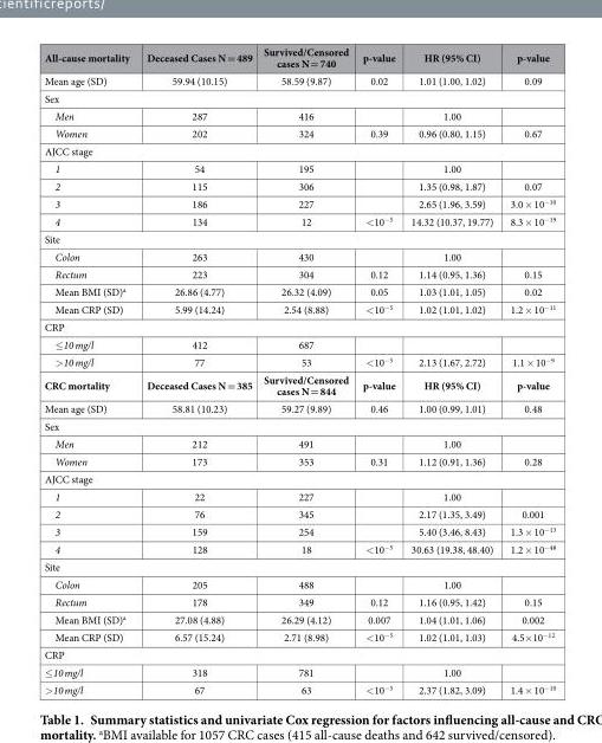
<table><thead><tr><td>All-cause mortality</td><td>Deceased Cases N = 489</td><td>Survived/Censored cases N = 740</td><td>p-value</td><td>HR (95% CI)</td><td>p-value</td></tr></thead><tbody><tr><td>Mean age (SD)</td><td>59.94 (10.15)</td><td>58.59 (9.87)</td><td>0.02</td><td>1.01 (1.00, 1.02)</td><td>0.09</td></tr><tr><td colspan="6">Sex</td></tr><tr><td>Men</td><td>287</td><td>416</td><td></td><td>1.00</td><td></td></tr><tr><td>Women</td><td>202</td><td>324</td><td>0.39</td><td>0.96 (0.80, 1.15)</td><td>0.67</td></tr><tr><td colspan="6">AJCC stage</td></tr><tr><td>1</td><td>54</td><td>195</td><td></td><td>1.00</td><td></td></tr><tr><td>2</td><td>115</td><td>306</td><td></td><td>1.35 (0.98, 1.87)</td><td>0.07</td></tr><tr><td>3</td><td>186</td><td>227</td><td></td><td>2.65 (1.96, 3.59)</td><td>3.0 × 10<sup>−10</sup></td></tr><tr><td>4</td><td>134</td><td>12</td><td>&lt; 10<sup>−5</sup></td><td>14.32 (10.37, 19.77)</td><td>8.3 × 10<sup>−19</sup></td></tr><tr><td colspan="6">Site</td></tr><tr><td>Colon</td><td>263</td><td>430</td><td></td><td>1.00</td><td></td></tr><tr><td>Rectum</td><td>223</td><td>304</td><td>0.12</td><td>1.14 (0.95, 1.36)</td><td>0.15</td></tr><tr><td>Mean BMI (SD)<sup>a</sup></td><td>26.86 (4.77)</td><td>26.32 (4.09)</td><td>0.05</td><td>1.03 (1.01, 1.05)</td><td>0.02</td></tr><tr><td>Mean CRP (SD)</td><td>5.99 (14.24)</td><td>2.54 (8.88)</td><td>&lt; 10<sup>−5</sup></td><td>1.02 (1.01, 1.02)</td><td>1.2 × 10<sup>−11</sup></td></tr><tr><td colspan="6">CRP</td></tr><tr><td>≤10 mg/l</td><td>412</td><td>687</td><td></td><td></td><td></td></tr><tr><td>&gt;10 mg/l</td><td>77</td><td>53</td><td>&lt; 10<sup>−5</sup></td><td>2.13 (1.67, 2.72)</td><td>1.1 × 10<sup>−9</sup></td></tr><tr><td>CRC mortality</td><td>Deceased Cases N = 385</td><td>Survived/Censored cases N = 844</td><td>p-value</td><td>HR (95% CI)</td><td>p-value</td></tr><tr><td>Mean age (SD)</td><td>58.81 (10.23)</td><td>59.27 (9.89)</td><td>0.46</td><td>1.00 (0.99, 1.01)</td><td>0.48</td></tr><tr><td colspan="6">Sex</td></tr><tr><td>Men</td><td>212</td><td>491</td><td></td><td>1.00</td><td></td></tr><tr><td>Women</td><td>173</td><td>353</td><td>0.31</td><td>1.12 (0.91, 1.36)</td><td>0.28</td></tr><tr><td colspan="6">AJCC stage</td></tr><tr><td>1</td><td>22</td><td>227</td><td></td><td>1.00</td><td></td></tr><tr><td>2</td><td>76</td><td>345</td><td></td><td>2.17 (1.35, 3.49)</td><td>0.001</td></tr><tr><td>3</td><td>159</td><td>254</td><td></td><td>5.40 (3.46, 8.43)</td><td>1.3 × 10<sup>−13</sup></td></tr><tr><td>4</td><td>128</td><td>18</td><td>&lt; 10<sup>−5</sup></td><td>30.63 (19.38, 48.40)</td><td>1.2 × 10<sup>−48</sup></td></tr><tr><td colspan="6">Site</td></tr><tr><td>Colon</td><td>205</td><td>488</td><td></td><td>1.00</td><td></td></tr><tr><td>Rectum</td><td>178</td><td>349</td><td>0.12</td><td>1.16 (0.95, 1.42)</td><td>0.15</td></tr><tr><td>Mean BMI (SD)<sup>a</sup></td><td>27.08 (4.88)</td><td>26.29 (4.12)</td><td>0.007</td><td>1.04 (1.01, 1.06)</td><td>0.002</td></tr><tr><td>Mean CRP (SD)</td><td>6.57 (15.24)</td><td>2.71 (8.98)</td><td>&lt; 10<sup>−5</sup></td><td>1.02 (1.01, 1.03)</td><td>4.5× 10<sup>−12</sup></td></tr><tr><td colspan="6">CRP</td></tr><tr><td>≤10 mg/l</td><td>318</td><td>781</td><td></td><td>1.00</td><td></td></tr><tr><td>&gt;10 mg/l</td><td>67</td><td>63</td><td>&lt; 10<sup>−5</sup></td><td>2.37 (1.82, 3.09)</td><td>1.4 × 10<sup>−10</sup></td></tr></tbody></table>